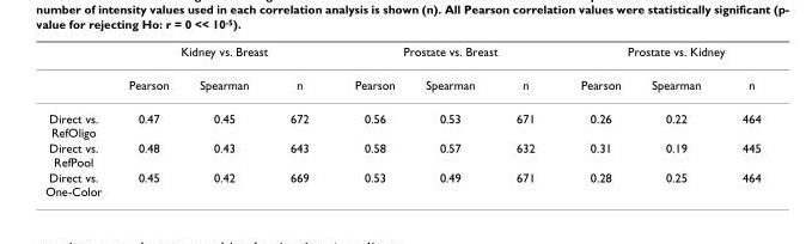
<table><thead><tr><td rowspan="2"></td><td colspan="3">Kidney vs. Breast</td><td colspan="3">Prostate vs. Breast</td><td colspan="3">Prostate vs. Kidney</td></tr><tr><td>Pearson</td><td>Spearman</td><td>n</td><td>Pearson</td><td>Spearman</td><td>n</td><td>Pearson</td><td>Spearman</td><td>n</td></tr></thead><tbody><tr><td>Direct vs. RefOligo</td><td>0.47</td><td>0.45</td><td>672</td><td>0.56</td><td>0.53</td><td>671</td><td>0.26</td><td>0.22</td><td>464</td></tr><tr><td>Direct vs. RefPool</td><td>0.48</td><td>0.43</td><td>643</td><td>0.58</td><td>0.57</td><td>632</td><td>0.31</td><td>0.19</td><td>445</td></tr><tr><td>Direct vs. One-Color</td><td>0.45</td><td>0.42</td><td>669</td><td>0.53</td><td>0.49</td><td>671</td><td>0.28</td><td>0.25</td><td>464</td></tr></tbody></table>